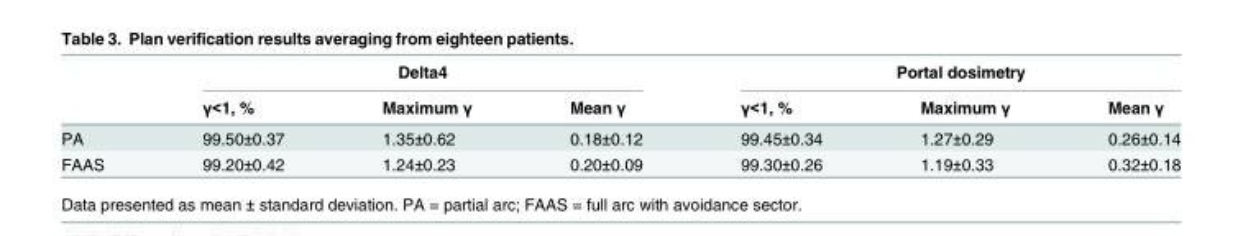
<table><thead><tr><td rowspan="2"></td><td colspan="3">Delta4</td><td colspan="3">Portal dosimetry</td></tr><tr><td>γ&lt;1, %</td><td>Maximum γ</td><td>Mean γ</td><td>γ&lt;1, %</td><td>Maximum γ</td><td>Mean γ</td></tr></thead><tbody><tr><td>PA</td><td>99.50±0.37</td><td>1.35±0.62</td><td>0.18±0.12</td><td>99.45±0.34</td><td>1.27±0.29</td><td>0.26±0.14</td></tr><tr><td>FAAS</td><td>99.20±0.42</td><td>1.24±0.23</td><td>0.20±0.09</td><td>99.30±0.26</td><td>1.19±0.33</td><td>0.32±0.18</td></tr></tbody></table>